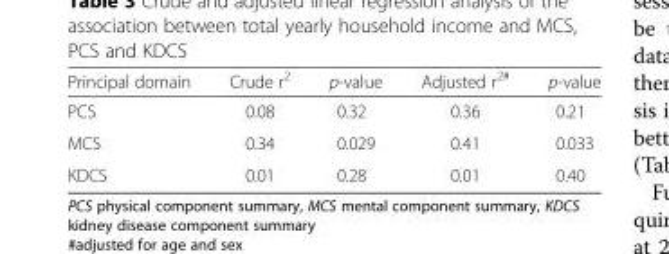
<table><thead><tr><td>Principal domain</td><td>Crude r<sup>2</sup></td><td>p-value</td><td>Adjusted r<sup>2#</sup></td><td>p-value</td></tr></thead><tbody><tr><td>PCS</td><td>0.08</td><td>0.32</td><td>0.36</td><td>0.21</td></tr><tr><td>MCS</td><td>0.34</td><td>0.029</td><td>0.41</td><td>0.033</td></tr><tr><td>KDCS</td><td>0.01</td><td>0.28</td><td>0.01</td><td>0.40</td></tr></tbody></table>